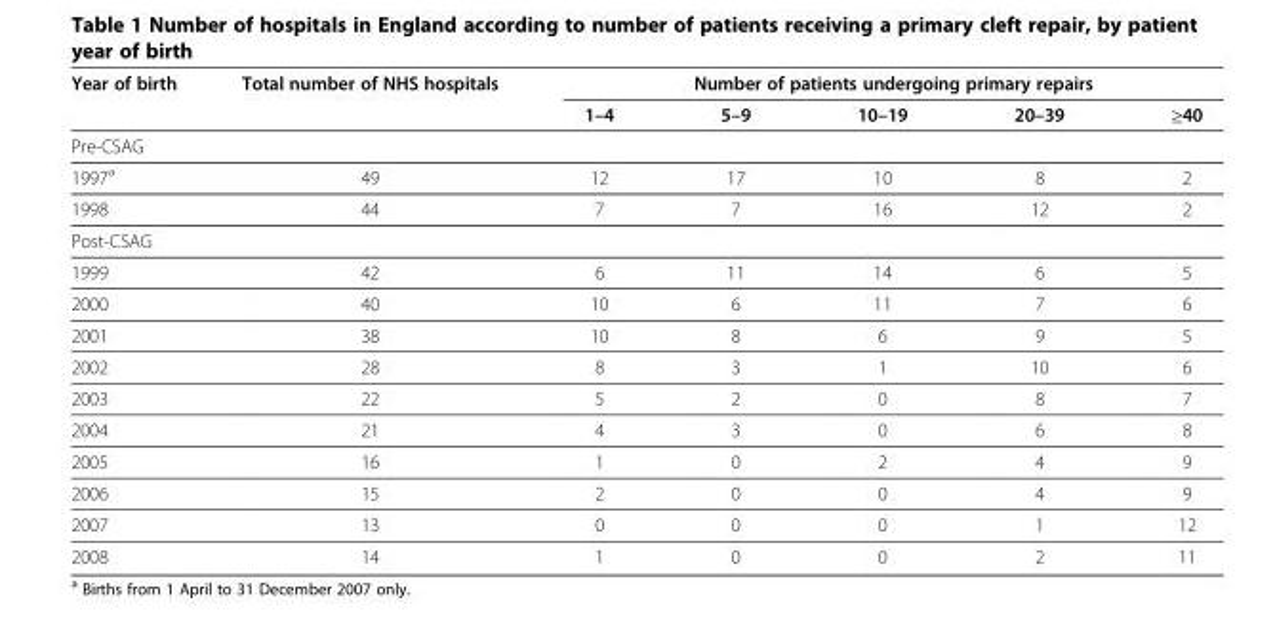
<table><thead><tr><td rowspan="2">Year of birth</td><td rowspan="2">Total number of NHS hospitals</td><td colspan="5">Number of patients undergoing primary repairs</td></tr><tr><td>1–4</td><td>5–9</td><td>10–19</td><td>20–39</td><td>≥40</td></tr></thead><tbody><tr><td colspan="7">Pre-CSAG</td></tr><tr><td>1997<sup>a</sup></td><td>49</td><td>12</td><td>17</td><td>10</td><td>8</td><td>2</td></tr><tr><td>1998</td><td>44</td><td>7</td><td>7</td><td>16</td><td>12</td><td>2</td></tr><tr><td colspan="7">Post-CSAG</td></tr><tr><td>1999</td><td>42</td><td>6</td><td>11</td><td>14</td><td>6</td><td>5</td></tr><tr><td>2000</td><td>40</td><td>10</td><td>6</td><td>11</td><td>7</td><td>6</td></tr><tr><td>2001</td><td>38</td><td>10</td><td>8</td><td>6</td><td>9</td><td>5</td></tr><tr><td>2002</td><td>28</td><td>8</td><td>3</td><td>1</td><td>10</td><td>6</td></tr><tr><td>2003</td><td>22</td><td>5</td><td>2</td><td>0</td><td>8</td><td>7</td></tr><tr><td>2004</td><td>21</td><td>4</td><td>3</td><td>0</td><td>6</td><td>8</td></tr><tr><td>2005</td><td>16</td><td>1</td><td>0</td><td>2</td><td>4</td><td>9</td></tr><tr><td>2006</td><td>15</td><td>2</td><td>0</td><td>0</td><td>4</td><td>9</td></tr><tr><td>2007</td><td>13</td><td>0</td><td>0</td><td>0</td><td>1</td><td>12</td></tr><tr><td>2008</td><td>14</td><td>1</td><td>0</td><td>0</td><td>2</td><td>11</td></tr></tbody></table>